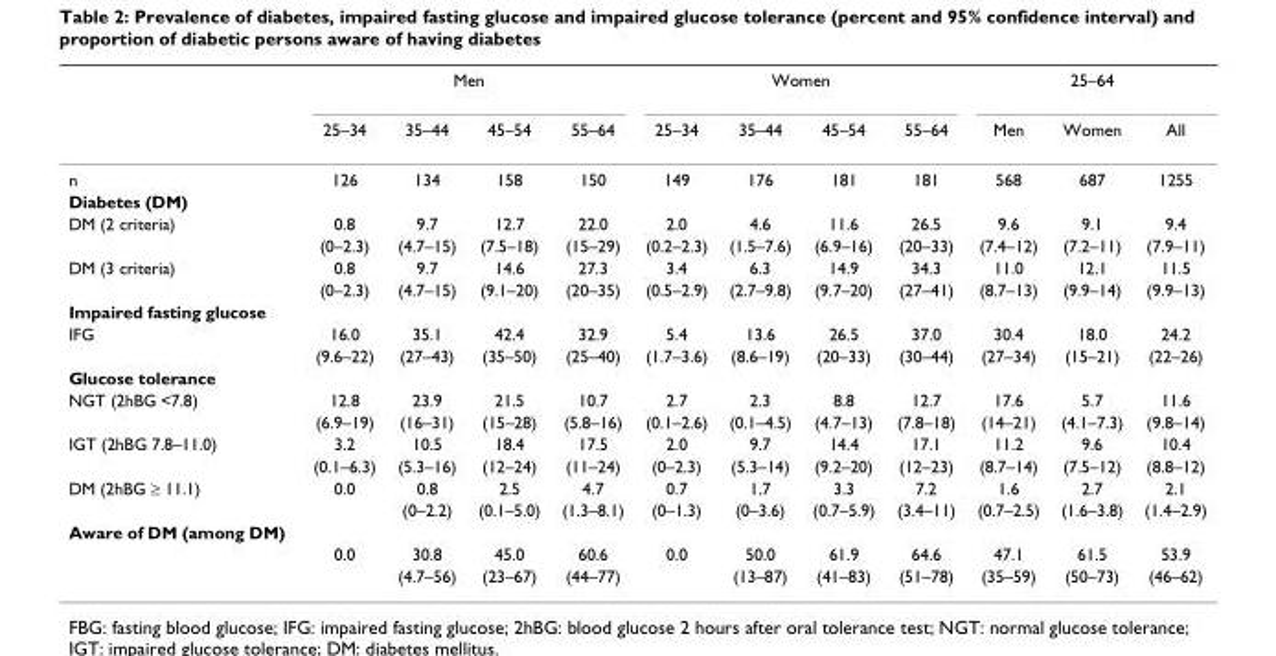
<table><thead><tr><td rowspan="2"></td><td colspan="4">Men</td><td colspan="4">Women</td><td colspan="3">25–64</td></tr><tr><td>25–34</td><td>35–44</td><td>45–54</td><td>55–64</td><td>25–34</td><td>35–44</td><td>45–54</td><td>55–64</td><td>Men</td><td>Women</td><td>All</td></tr></thead><tbody><tr><td>n</td><td>126</td><td>134</td><td>158</td><td>150</td><td>149</td><td>176</td><td>181</td><td>181</td><td>568</td><td>687</td><td>1255</td></tr><tr><td colspan="12">Diabetes (DM)</td></tr><tr><td rowspan="2">DM (2 criteria)</td><td>0.8</td><td>9.7</td><td>12.7</td><td>22.0</td><td>2.0</td><td>4.6</td><td>11.6</td><td>26.5</td><td>9.6</td><td>9.1</td><td>9.4</td></tr><tr><td>(0–2.3)</td><td>(4.7–15)</td><td>(7.5–18)</td><td>(15–29)</td><td>(0.2–2.3)</td><td>(1.5–7.6)</td><td>(6.9–16)</td><td>(20–33)</td><td>(7.4–12)</td><td>(7.2–11)</td><td>(7.9–11)</td></tr><tr><td rowspan="2">DM (3 criteria)</td><td>0.8</td><td>9.7</td><td>14.6</td><td>27.3</td><td>3.4</td><td>6.3</td><td>14.9</td><td>34.3</td><td>11.0</td><td>12.1</td><td>11.5</td></tr><tr><td>(0–2.3)</td><td>(4.7–15)</td><td>(9.1–20)</td><td>(20–35)</td><td>(0.5–2.9)</td><td>(2.7–9.8)</td><td>(9.7–20)</td><td>(27–41)</td><td>(8.7–13)</td><td>(9.9–14)</td><td>(9.9–13)</td></tr><tr><td colspan="12">Impaired fasting glucose</td></tr><tr><td rowspan="2">IFG</td><td>16.0</td><td>35.1</td><td>42.4</td><td>32.9</td><td>5.4</td><td>13.6</td><td>26.5</td><td>37.0</td><td>30.4</td><td>18.0</td><td>24.2</td></tr><tr><td>(9.6–22)</td><td>(27–43)</td><td>(35–50)</td><td>(25–40)</td><td>(1.7–3.6)</td><td>(8.6–19)</td><td>(20–33)</td><td>(30–44)</td><td>(27–34)</td><td>(15–21)</td><td>(22–26)</td></tr><tr><td colspan="12">Glucose tolerance</td></tr><tr><td rowspan="2">NGT (2hBG &lt;7.8)</td><td>12.8</td><td>23.9</td><td>21.5</td><td>10.7</td><td>2.7</td><td>2.3</td><td>8.8</td><td>12.7</td><td>17.6</td><td>5.7</td><td>11.6</td></tr><tr><td>(6.9–19)</td><td>(16–31)</td><td>(15–28)</td><td>(5.8–16)</td><td>(0.1–2.6)</td><td>(0.1–4.5)</td><td>(4.7–13)</td><td>(7.8–18)</td><td>(14–21)</td><td>(4.1–7.3)</td><td>(9.8–14)</td></tr><tr><td rowspan="2">IGT (2hBG 7.8–11.0)</td><td>3.2</td><td>10.5</td><td>18.4</td><td>17.5</td><td>2.0</td><td>9.7</td><td>14.4</td><td>17.1</td><td>11.2</td><td>9.6</td><td>10.4</td></tr><tr><td>(0.1–6.3)</td><td>(5.3–16)</td><td>(12–24)</td><td>(11–24)</td><td>(0–2.3)</td><td>(5.3–14)</td><td>(9.2–20)</td><td>(12–23)</td><td>(8.7–14)</td><td>(7.5–12)</td><td>(8.8–12)</td></tr><tr><td rowspan="2">DM (2hBG ≥ 11.1)</td><td>0.0</td><td>0.8</td><td>2.5</td><td>4.7</td><td>0.7</td><td>1.7</td><td>3.3</td><td>7.2</td><td>1.6</td><td>2.7</td><td>2.1</td></tr><tr><td></td><td>(0–2.2)</td><td>(0.1–5.0)</td><td>(1.3–8.1)</td><td>(0–1.3)</td><td>(0–3.6)</td><td>(0.7–5.9)</td><td>(3.4–11)</td><td>(0.7–2.5)</td><td>(1.6–3.8)</td><td>(1.4–2.9)</td></tr><tr><td colspan="12">Aware of DM (among DM)</td></tr><tr><td></td><td>0.0</td><td>30.8</td><td>45.0</td><td>60.6</td><td>0.0</td><td>50.0</td><td>61.9</td><td>64.6</td><td>47.1</td><td>61.5</td><td>53.9</td></tr><tr><td></td><td></td><td>(4.7–56)</td><td>(23–67)</td><td>(44–77)</td><td></td><td>(13–87)</td><td>(41–83)</td><td>(51–78)</td><td>(35–59)</td><td>(50–73)</td><td>(46–62)</td></tr></tbody></table>